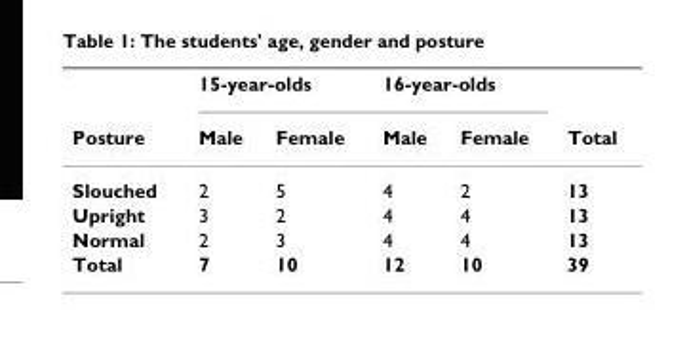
<table><thead><tr><td rowspan="2">Posture</td><td colspan="2">15-year-olds</td><td colspan="2">16-year-olds</td><td rowspan="2">Total</td></tr><tr><td>Male</td><td>Female</td><td>Male</td><td>Female</td></tr></thead><tbody><tr><td>Slouched</td><td>2</td><td>5</td><td>4</td><td>2</td><td>13</td></tr><tr><td>Upright</td><td>3</td><td>2</td><td>4</td><td>4</td><td>13</td></tr><tr><td>Normal</td><td>2</td><td>3</td><td>4</td><td>4</td><td>13</td></tr><tr><td>Total</td><td>7</td><td>10</td><td>12</td><td>10</td><td>39</td></tr></tbody></table>